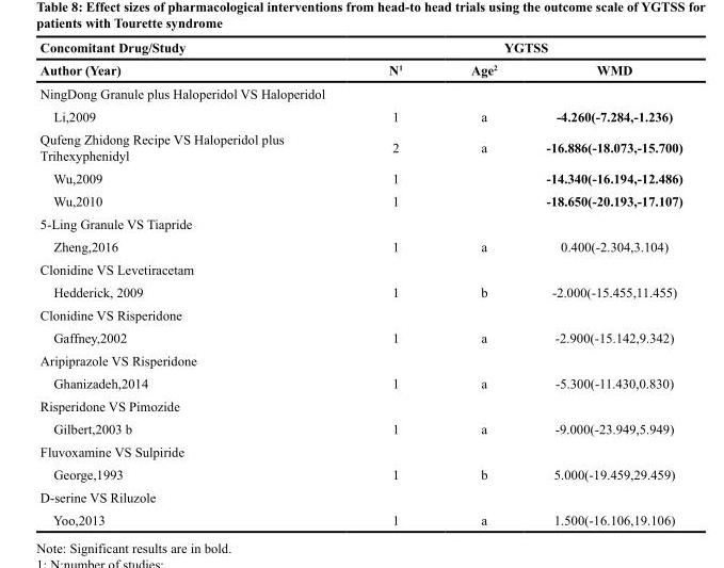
<table><thead><tr><td rowspan="2">Concomitant Drug/Study Author (Year)</td><td colspan="3">YGTSS</td></tr><tr><td>N<sup>1</sup></td><td>Age<sup>2</sup></td><td>WMD</td></tr></thead><tbody><tr><td colspan="4">NingDong Granule plus Haloperidol VS Haloperidol</td></tr><tr><td>Li,2009</td><td>1</td><td>a</td><td>-4.260(-7.284,-1.236)</td></tr><tr><td>Qufeng Zhidong Recipe VS Haloperidol plus Trihexyphenidyl</td><td>2</td><td>a</td><td>-16.886(-18.073,-15.700)</td></tr><tr><td>Wu,2009</td><td>1</td><td></td><td>-14.340(-16.194,-12.486)</td></tr><tr><td>Wu,2010</td><td>1</td><td></td><td>-18.650(-20.193,-17.107)</td></tr><tr><td colspan="4">5-Ling Granule VS Tiapride</td></tr><tr><td>Zheng,2016</td><td>1</td><td>a</td><td>0.400(-2.304,3.104)</td></tr><tr><td colspan="4">Clonidine VS Levetiracetam</td></tr><tr><td>Hedderick, 2009</td><td>1</td><td>b</td><td>-2.000(-15.455,11.455)</td></tr><tr><td colspan="4">Clonidine VS Risperidone</td></tr><tr><td>Gaffney,2002</td><td>1</td><td>a</td><td>-2.900(-15.142,9.342)</td></tr><tr><td colspan="4">Aripiprazole VS Risperidone</td></tr><tr><td>Ghanizadeh,2014</td><td>1</td><td>a</td><td>-5.300(-11.430,0.830)</td></tr><tr><td colspan="4">Risperidone VS Pimozide</td></tr><tr><td>Gilbert,2003 b</td><td>1</td><td>a</td><td>-9.000(-23.949,5.949)</td></tr><tr><td colspan="4">Fluvoxamine VS Sulpiride</td></tr><tr><td>George,1993</td><td>1</td><td>b</td><td>5.000(-19.459,29.459)</td></tr><tr><td colspan="4">D-serine VS Riluzole</td></tr><tr><td>Yoo,2013</td><td>1</td><td>a</td><td>1.500(-16.106,19.106)</td></tr></tbody></table>